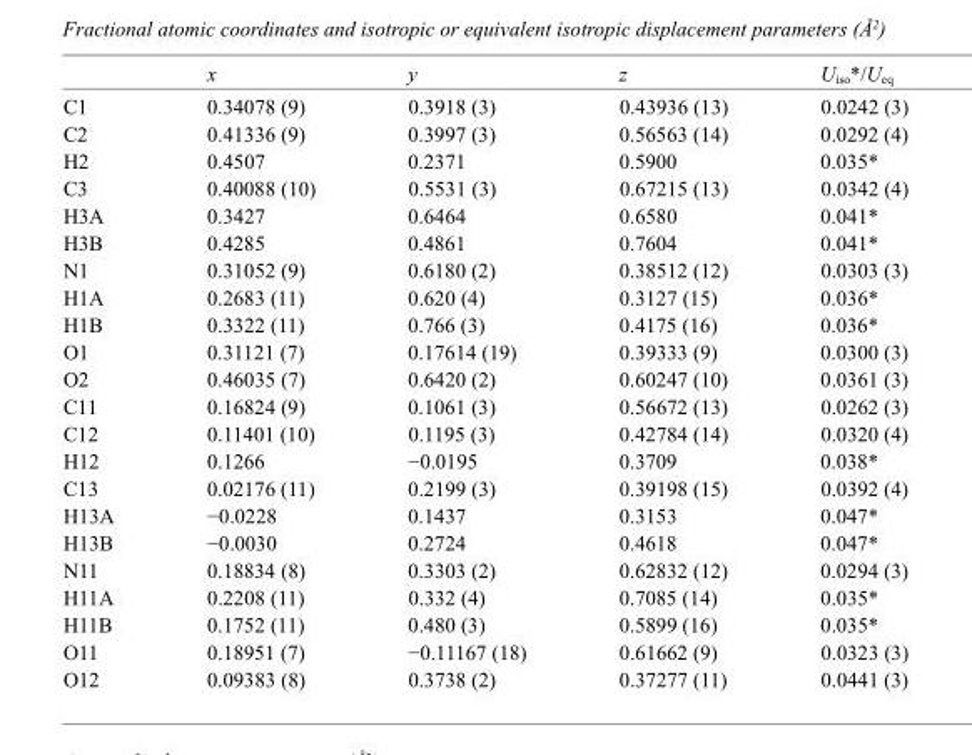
<table><thead><tr><td></td><td>x</td><td>y</td><td>z</td><td>U<sub>iso</sub>*/U<sub>eq</sub></td></tr></thead><tbody><tr><td>C1</td><td>0.34078 (9)</td><td>0.3918 (3)</td><td>0.43936 (13)</td><td>0.0242 (3)</td></tr><tr><td>C2</td><td>0.41336 (9)</td><td>0.3997 (3)</td><td>0.56563 (14)</td><td>0.0292 (4)</td></tr><tr><td>H2</td><td>0.4507</td><td>0.2371</td><td>0.5900</td><td>0.035*</td></tr><tr><td>C3</td><td>0.40088 (10)</td><td>0.5531 (3)</td><td>0.67215 (13)</td><td>0.0342 (4)</td></tr><tr><td>H3A</td><td>0.3427</td><td>0.6464</td><td>0.6580</td><td>0.041*</td></tr><tr><td>H3B</td><td>0.4285</td><td>0.4861</td><td>0.7604</td><td>0.041*</td></tr><tr><td>N1</td><td>0.31052 (9)</td><td>0.6180 (2)</td><td>0.38512 (12)</td><td>0.0303 (3)</td></tr><tr><td>H1A</td><td>0.2683 (11)</td><td>0.620 (4)</td><td>0.3127 (15)</td><td>0.036*</td></tr><tr><td>H1B</td><td>0.3322 (11)</td><td>0.766 (3)</td><td>0.4175 (16)</td><td>0.036*</td></tr><tr><td>O1</td><td>0.31121 (7)</td><td>0.17614 (19)</td><td>0.39333 (9)</td><td>0.0300 (3)</td></tr><tr><td>O2</td><td>0.46035 (7)</td><td>0.6420 (2)</td><td>0.60247 (10)</td><td>0.0361 (3)</td></tr><tr><td>C11</td><td>0.16824 (9)</td><td>0.1061 (3)</td><td>0.56672 (13)</td><td>0.0262 (3)</td></tr><tr><td>C12</td><td>0.11401 (10)</td><td>0.1195 (3)</td><td>0.42784 (14)</td><td>0.0320 (4)</td></tr><tr><td>H12</td><td>0.1266</td><td>−0.0195</td><td>0.3709</td><td>0.038*</td></tr><tr><td>C13</td><td>0.02176 (11)</td><td>0.2199 (3)</td><td>0.39198 (15)</td><td>0.0392 (4)</td></tr><tr><td>H13A</td><td>−0.0228</td><td>0.1437</td><td>0.3153</td><td>0.047*</td></tr><tr><td>H13B</td><td>−0.0030</td><td>0.2724</td><td>0.4618</td><td>0.047*</td></tr><tr><td>N11</td><td>0.18834 (8)</td><td>0.3303 (2)</td><td>0.62832 (12)</td><td>0.0294 (3)</td></tr><tr><td>H11A</td><td>0.2208 (11)</td><td>0.332 (4)</td><td>0.7085 (14)</td><td>0.035*</td></tr><tr><td>H11B</td><td>0.1752 (11)</td><td>0.480 (3)</td><td>0.5899 (16)</td><td>0.035*</td></tr><tr><td>O11</td><td>0.18951 (7)</td><td>−0.11167 (18)</td><td>0.61662 (9)</td><td>0.0323 (3)</td></tr><tr><td>O12</td><td>0.09383 (8)</td><td>0.3738 (2)</td><td>0.37277 (11)</td><td>0.0441 (3)</td></tr></tbody></table>